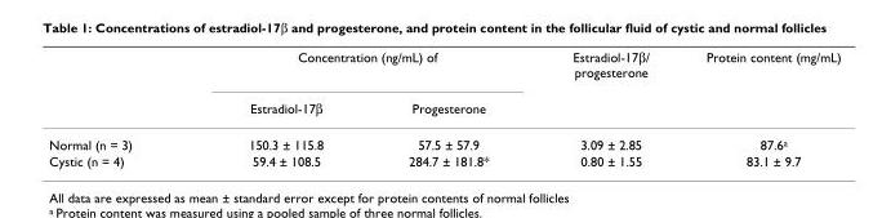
<table><thead><tr><td rowspan="2"></td><td colspan="2">Concentration (ng/mL) of</td><td rowspan="2">Estradiol-17β/ progesterone</td><td rowspan="2">Protein content (mg/mL)</td></tr><tr><td>Estradiol-17β</td><td>Progesterone</td></tr></thead><tbody><tr><td>Normal (n = 3)</td><td>150.3 ± 115.8</td><td>57.5 ± 57.9</td><td>3.09 ± 2.85</td><td>87.6<sup>a</sup></td></tr><tr><td>Cystic (n = 4)</td><td>59.4 ± 108.5</td><td>284.7 ± 181.8*</td><td>0.80 ± 1.55</td><td>83.1 ± 9.7</td></tr></tbody></table>